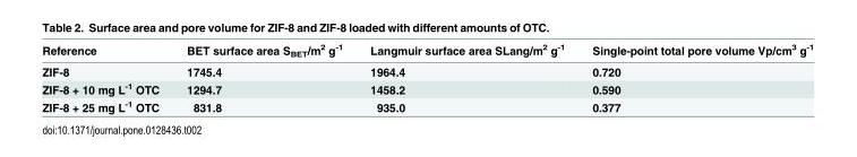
<table><thead><tr><td>Reference</td><td>BET surface area S<sub>BET</sub>/m<sup>2</sup> g<sup>-1</sup></td><td>Langmuir surface area SLang/m<sup>2</sup> g<sup>-1</sup></td><td>Single-point total pore volume Vp/cm<sup>3</sup> g<sup>-1</sup></td></tr></thead><tbody><tr><td>ZIF-8</td><td>1745.4</td><td>1964.4</td><td>0.720</td></tr><tr><td>ZIF-8 + 10 mg L<sup>-1</sup> OTC</td><td>1294.7</td><td>1458.2</td><td>0.590</td></tr><tr><td>ZIF-8 + 25 mg L<sup>-1</sup> OTC</td><td>831.8</td><td>935.0</td><td>0.377</td></tr></tbody></table>